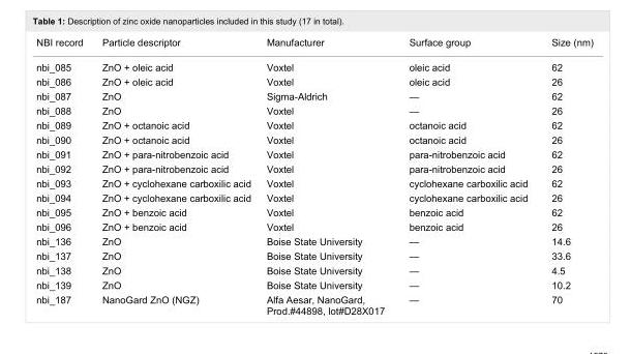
<table><tbody><tr><td>NBI record</td><td>Particle descriptor</td><td>Manufacturer</td><td>Surface group</td><td>Size (nm)</td></tr><tr><td>nbi_085</td><td>ZnO + oleic acid</td><td>Voxtel</td><td>oleic acid</td><td>62</td></tr><tr><td>nbi_086</td><td>ZnO + oleic acid</td><td>Voxtel</td><td>oleic acid</td><td>26</td></tr><tr><td>nbi_087</td><td>ZnO</td><td>Sigma-Aldrich</td><td>—</td><td>62</td></tr><tr><td>nbi_088</td><td>ZnO</td><td>Voxtel</td><td>—</td><td>26</td></tr><tr><td>nbi_089</td><td>ZnO + octanoic acid</td><td>Voxtel</td><td>octanoic acid</td><td>62</td></tr><tr><td>nbi_090</td><td>ZnO + octanoic acid</td><td>Voxtel</td><td>octanoic acid</td><td>26</td></tr><tr><td>nbi_091</td><td>ZnO + para-nitrobenzoic acid</td><td>Voxtel</td><td>para-nitrobenzoic acid</td><td>62</td></tr><tr><td>nbi_092</td><td>ZnO + para-nitrobenzoic acid</td><td>Voxtel</td><td>para-nitrobenzoic acid</td><td>26</td></tr><tr><td>nbi_093</td><td>ZnO + cyclohexane carboxilic acid</td><td>Voxtel</td><td>cyclohexane carboxilic acid</td><td>62</td></tr><tr><td>nbi_094</td><td>ZnO + cyclohexane carboxilic acid</td><td>Voxtel</td><td>cyclohexane carboxilic acid</td><td>26</td></tr><tr><td>nbi_095</td><td>ZnO + benzoic acid</td><td>Voxtel</td><td>benzoic acid</td><td>62</td></tr><tr><td>nbi_096</td><td>ZnO + benzoic acid</td><td>Voxtel</td><td>benzoic acid</td><td>26</td></tr><tr><td>nbi_136</td><td>ZnO</td><td>Boise State University</td><td>—</td><td>14.6</td></tr><tr><td>nbi_137</td><td>ZnO</td><td>Boise State University</td><td>—</td><td>33.6</td></tr><tr><td>nbi_138</td><td>ZnO</td><td>Boise State University</td><td>—</td><td>4.5</td></tr><tr><td>nbi_139</td><td>ZnO</td><td>Boise State University</td><td>—</td><td>10.2</td></tr><tr><td>nbi_187</td><td>NanoGard ZnO (NGZ)</td><td>Alfa Aesar, NanoGard, Prod.#44898, lot#D28X017</td><td>—</td><td>70</td></tr></tbody></table>